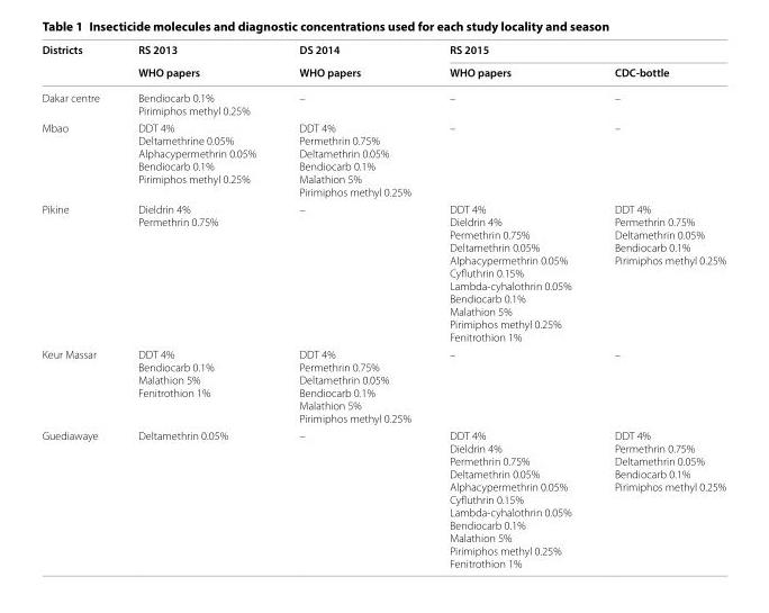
<table><thead><tr><td rowspan="2">Districts</td><td rowspan="2">RS 2013 WHO papers</td><td rowspan="2">DS 2014 WHO papers</td><td colspan="2">RS 2015</td></tr><tr><td>WHO papers</td><td>CDC-bottle</td></tr></thead><tbody><tr><td>Dakar centre</td><td>Bendiocarb 0.1% Pirimiphos methyl 0.25%</td><td>–</td><td>–</td><td>–</td></tr><tr><td>Mbao</td><td>DDT 4% Deltamethrine 0.05% Alphacypermethrin 0.05% Bendiocarb 0.1% Pirimiphos methyl 0.25%</td><td>DDT 4% Permethrin 0.75% Deltamethrin 0.05% Bendiocarb 0.1% Malathion 5% Pirimiphos methyl 0.25%</td><td>–</td><td>–</td></tr><tr><td>Pikine</td><td>Dieldrin 4% Permethrin 0.75%</td><td>–</td><td>DDT 4% Dieldrin 4% Permethrin 0.75% Deltamethrin 0.05% Alphacypermethrin 0.05% Cyfluthrin 0.15% Lambda-cyhalothrin 0.05% Bendiocarb 0.1% Malathion 5% Pirimiphos methyl 0.25% Fenitrothion 1%</td><td>DDT 4% Permethrin 0.75% Deltamethrin 0.05% Bendiocarb 0.1% Pirimiphos methyl 0.25%</td></tr><tr><td>Keur Massar</td><td>DDT 4% Bendiocarb 0.1% Malathion 5% Fenitrothion 1%</td><td>DDT 4% Permethrin 0.75% Deltamethrin 0.05% Bendiocarb 0.1% Malathion 5% Pirimiphos methyl 0.25%</td><td>–</td><td>–</td></tr><tr><td>Guediawaye</td><td>Deltamethrin 0.05%</td><td>–</td><td>DDT 4% Dieldrin 4% Permethrin 0.75% Deltamethrin 0.05% Alphacypermethrin 0.05% Cyfluthrin 0.15% Lambda-cyhalothrin 0.05% Bendiocarb 0.1% Malathion 5% Pirimiphos methyl 0.25% Fenitrothion 1%</td><td>DDT 4% Permethrin 0.75% Deltamethrin 0.05% Bendiocarb 0.1% Pirimiphos methyl 0.25%</td></tr></tbody></table>